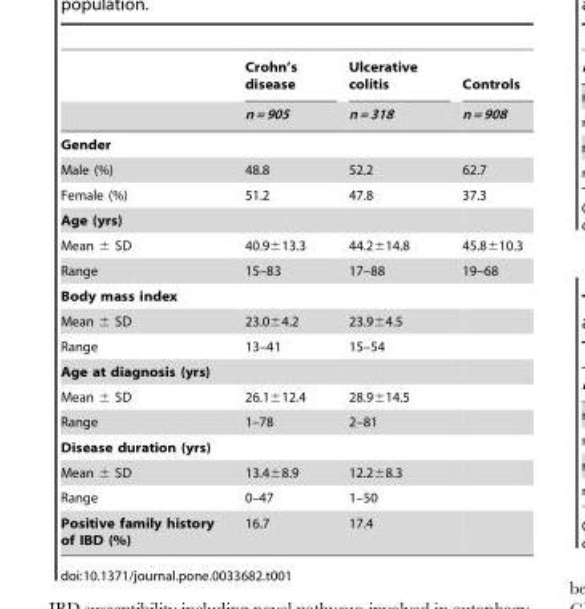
<table><thead><tr><td rowspan="2"></td><td rowspan="2">Crohn’s disease n = 905</td><td rowspan="2">Ulcerative colitis n = 318</td><td rowspan="2">Controls n = 908</td></tr><tr></tr></thead><tbody><tr><td colspan="4">Gender</td></tr><tr><td>Male (%)</td><td>48.8</td><td>52.2</td><td>62.7</td></tr><tr><td>Female (%)</td><td>51.2</td><td>47.8</td><td>37.3</td></tr><tr><td colspan="4">Age (yrs)</td></tr><tr><td>Mean ± SD</td><td>40.9±13.3</td><td>44.2±14.8</td><td>45.8±10.3</td></tr><tr><td>Range</td><td>15–83</td><td>17–88</td><td>19–68</td></tr><tr><td colspan="4">Body mass index</td></tr><tr><td>Mean ± SD</td><td>23.0±4.2</td><td>23.9±4.5</td><td></td></tr><tr><td>Range</td><td>13–41</td><td>15–54</td><td></td></tr><tr><td colspan="4">Age at diagnosis (yrs)</td></tr><tr><td>Mean ± SD</td><td>26.1±12.4</td><td>28.9±14.5</td><td></td></tr><tr><td>Range</td><td>1–78</td><td>2–81</td><td></td></tr><tr><td colspan="4">Disease duration (yrs)</td></tr><tr><td>Mean ± SD</td><td>13.4±8.9</td><td>12.2±8.3</td><td></td></tr><tr><td>Range</td><td>0–47</td><td>1–50</td><td></td></tr><tr><td>Positive family history of IBD (%)</td><td>16.7</td><td>17.4</td><td></td></tr></tbody></table>